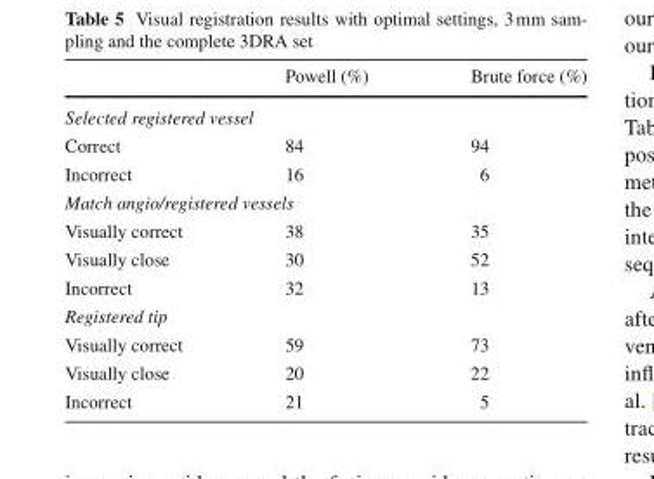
<table><thead><tr><td></td><td>Powell (%)</td><td>Brute force (%)</td></tr></thead><tbody><tr><td colspan="3">Selected registered vessel</td></tr><tr><td>Correct</td><td>84</td><td>94</td></tr><tr><td>Incorrect</td><td>16</td><td>6</td></tr><tr><td colspan="3">Match angio/registered vessels</td></tr><tr><td>Visually correct</td><td>38</td><td>35</td></tr><tr><td>Visually close</td><td>30</td><td>52</td></tr><tr><td>Incorrect</td><td>32</td><td>13</td></tr><tr><td colspan="3">Registered tip</td></tr><tr><td>Visually correct</td><td>59</td><td>73</td></tr><tr><td>Visually close</td><td>20</td><td>22</td></tr><tr><td>Incorrect</td><td>21</td><td>5</td></tr></tbody></table>